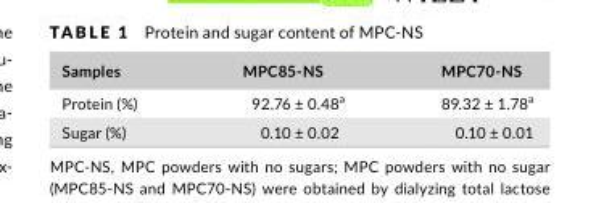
<table><thead><tr><td>Samples</td><td>MPC85- NS</td><td>MPC70- NS</td></tr></thead><tbody><tr><td>Protein (%)</td><td>92.76 ± 0.48<sup>a</sup></td><td>89.32 ± 1.78<sup>a</sup></td></tr><tr><td>Sugar (%)</td><td>0.10 ± 0.02</td><td>0.10 ± 0.01</td></tr></tbody></table>